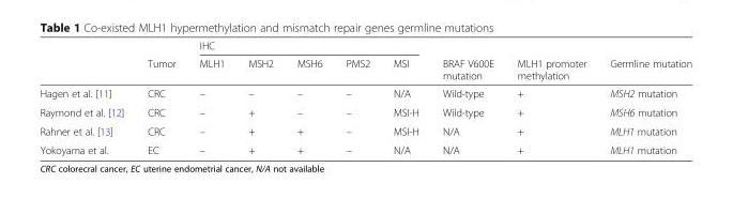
<table><thead><tr><td rowspan="2"></td><td rowspan="2">Tumor</td><td colspan="5">IHC</td><td rowspan="2">BRAF V600E mutation</td><td rowspan="2">MLH1 promoter methylation</td><td rowspan="2">Germline mutation</td></tr><tr><td>MLH1</td><td>MSH2</td><td>MSH6</td><td>PMS2</td><td>MSI</td></tr></thead><tbody><tr><td>Hagen et al. [11]</td><td>CRC</td><td>–</td><td>–</td><td>–</td><td>–</td><td>N/A</td><td>Wild-type</td><td>+</td><td>MSH2 mutation</td></tr><tr><td>Raymond et al. [12]</td><td>CRC</td><td>–</td><td>+</td><td>–</td><td>–</td><td>MSI-H</td><td>Wild-type</td><td>+</td><td>MSH6 mutation</td></tr><tr><td>Rahner et al. [13]</td><td>CRC</td><td>–</td><td>+</td><td>+</td><td>–</td><td>MSI-H</td><td>N/A</td><td>+</td><td>MLH1 mutation</td></tr><tr><td>Yokoyama et al.</td><td>EC</td><td>–</td><td>+</td><td>+</td><td>–</td><td>N/A</td><td>N/A</td><td>+</td><td>MLH1 mutation</td></tr></tbody></table>